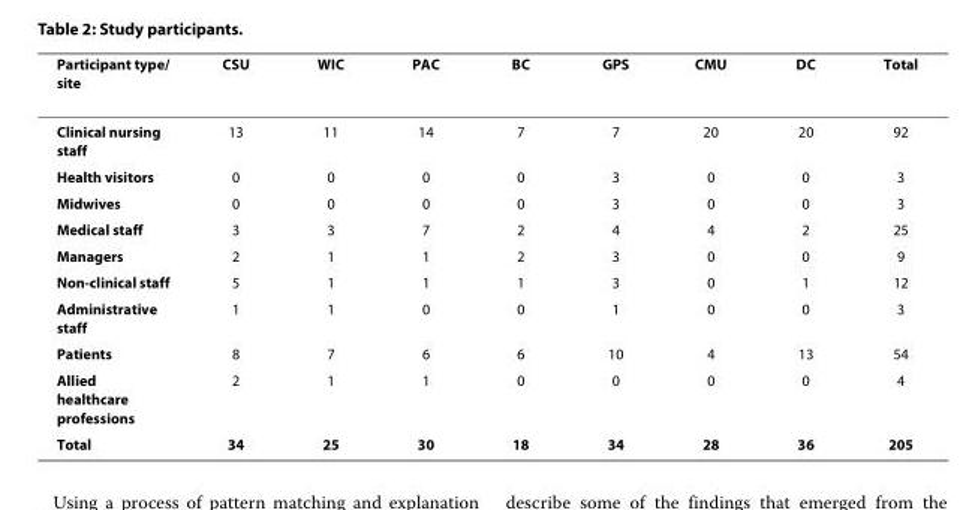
<table><thead><tr><td>Participant type/ site</td><td>CSU</td><td>WIC</td><td>PAC</td><td>BC</td><td>GPS</td><td>CMU</td><td>DC</td><td>Total</td></tr></thead><tbody><tr><td>Clinical nursing staff</td><td>13</td><td>11</td><td>14</td><td>7</td><td>7</td><td>20</td><td>20</td><td>92</td></tr><tr><td>Health visitors</td><td>0</td><td>0</td><td>0</td><td>0</td><td>3</td><td>0</td><td>0</td><td>3</td></tr><tr><td>Midwives</td><td>0</td><td>0</td><td>0</td><td>0</td><td>3</td><td>0</td><td>0</td><td>3</td></tr><tr><td>Medical staff</td><td>3</td><td>3</td><td>7</td><td>2</td><td>4</td><td>4</td><td>2</td><td>25</td></tr><tr><td>Managers</td><td>2</td><td>1</td><td>1</td><td>2</td><td>3</td><td>0</td><td>0</td><td>9</td></tr><tr><td>Non-clinical staff</td><td>5</td><td>1</td><td>1</td><td>1</td><td>3</td><td>0</td><td>1</td><td>12</td></tr><tr><td>Administrative staff</td><td>1</td><td>1</td><td>0</td><td>0</td><td>1</td><td>0</td><td>0</td><td>3</td></tr><tr><td>Patients</td><td>8</td><td>7</td><td>6</td><td>6</td><td>10</td><td>4</td><td>13</td><td>54</td></tr><tr><td>Allied healthcare professions</td><td>2</td><td>1</td><td>1</td><td>0</td><td>0</td><td>0</td><td>0</td><td>4</td></tr><tr><td>Total</td><td>34</td><td>25</td><td>30</td><td>18</td><td>34</td><td>28</td><td>36</td><td>205</td></tr></tbody></table>